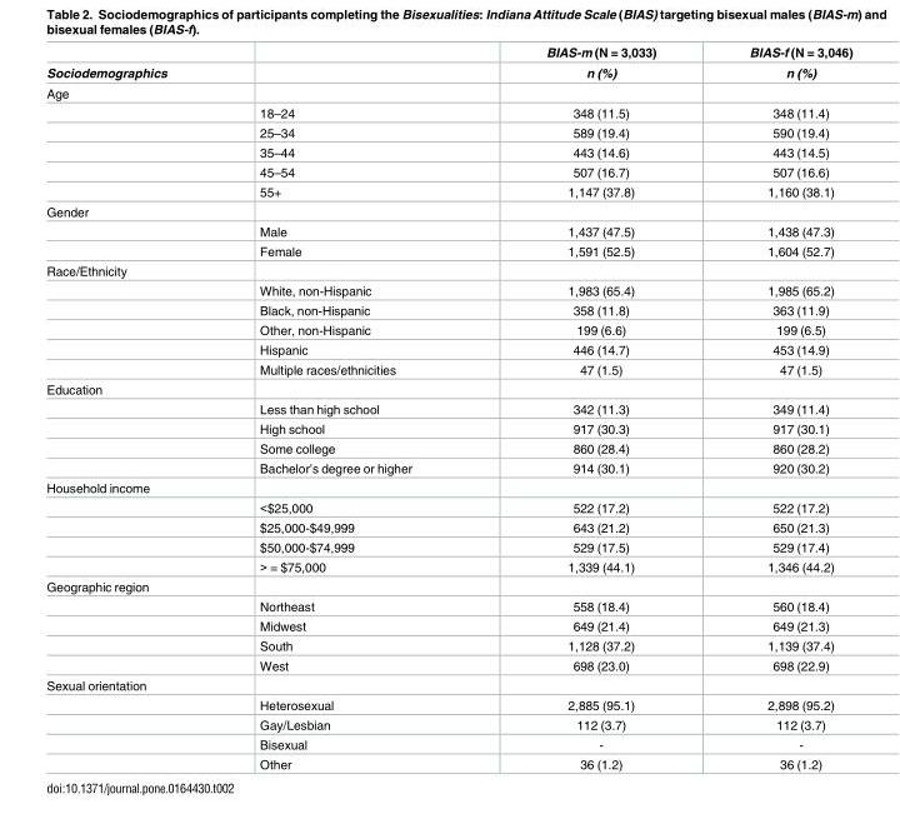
<table><thead><tr><td rowspan="2">Sociodemographics</td><td rowspan="2"></td><td rowspan="2">BIAS-m (N = 3,033) n (%)</td><td rowspan="2">BIAS-f (N = 3,046) n (%)</td></tr><tr></tr></thead><tbody><tr><td colspan="4">Age</td></tr><tr><td></td><td>18–24</td><td>348 (11.5)</td><td>348 (11.4)</td></tr><tr><td></td><td>25–34</td><td>589 (19.4)</td><td>590 (19.4)</td></tr><tr><td></td><td>35–44</td><td>443 (14.6)</td><td>443 (14.5)</td></tr><tr><td></td><td>45–54</td><td>507 (16.7)</td><td>507 (16.6)</td></tr><tr><td></td><td>55+</td><td>1,147 (37.8)</td><td>1,160 (38.1)</td></tr><tr><td colspan="4">Gender</td></tr><tr><td></td><td>Male</td><td>1,437 (47.5)</td><td>1,438 (47.3)</td></tr><tr><td></td><td>Female</td><td>1,591 (52.5)</td><td>1,604 (52.7)</td></tr><tr><td colspan="4">Race/Ethnicity</td></tr><tr><td></td><td>White, non-Hispanic</td><td>1,983 (65.4)</td><td>1,985 (65.2)</td></tr><tr><td></td><td>Black, non-Hispanic</td><td>358 (11.8)</td><td>363 (11.9)</td></tr><tr><td></td><td>Other, non-Hispanic</td><td>199 (6.6)</td><td>199 (6.5)</td></tr><tr><td></td><td>Hispanic</td><td>446 (14.7)</td><td>453 (14.9)</td></tr><tr><td></td><td>Multiple races/ethnicities</td><td>47 (1.5)</td><td>47 (1.5)</td></tr><tr><td colspan="4">Education</td></tr><tr><td></td><td>Less than high school</td><td>342 (11.3)</td><td>349 (11.4)</td></tr><tr><td></td><td>High school</td><td>917 (30.3)</td><td>917 (30.1)</td></tr><tr><td></td><td>Some college</td><td>860 (28.4)</td><td>860 (28.2)</td></tr><tr><td></td><td>Bachelor’s degree or higher</td><td>914 (30.1)</td><td>920 (30.2)</td></tr><tr><td colspan="4">Household income</td></tr><tr><td></td><td>&lt;$25,000</td><td>522 (17.2)</td><td>522 (17.2)</td></tr><tr><td></td><td>$25,000-$49,999</td><td>643 (21.2)</td><td>650 (21.3)</td></tr><tr><td></td><td>$50,000-$74,999</td><td>529 (17.5)</td><td>529 (17.4)</td></tr><tr><td></td><td>&gt; = $75,000</td><td>1,339 (44.1)</td><td>1,346 (44.2)</td></tr><tr><td colspan="4">Geographic region</td></tr><tr><td></td><td>Northeast</td><td>558 (18.4)</td><td>560 (18.4)</td></tr><tr><td></td><td>Midwest</td><td>649 (21.4)</td><td>649 (21.3)</td></tr><tr><td></td><td>South</td><td>1,128 (37.2)</td><td>1,139 (37.4)</td></tr><tr><td></td><td>West</td><td>698 (23.0)</td><td>698 (22.9)</td></tr><tr><td colspan="4">Sexual orientation</td></tr><tr><td></td><td>Heterosexual</td><td>2,885 (95.1)</td><td>2,898 (95.2)</td></tr><tr><td></td><td>Gay/Lesbian</td><td>112 (3.7)</td><td>112 (3.7)</td></tr><tr><td></td><td>Bisexual</td><td>-</td><td>-</td></tr><tr><td></td><td>Other</td><td>36 (1.2)</td><td>36 (1.2)</td></tr></tbody></table>